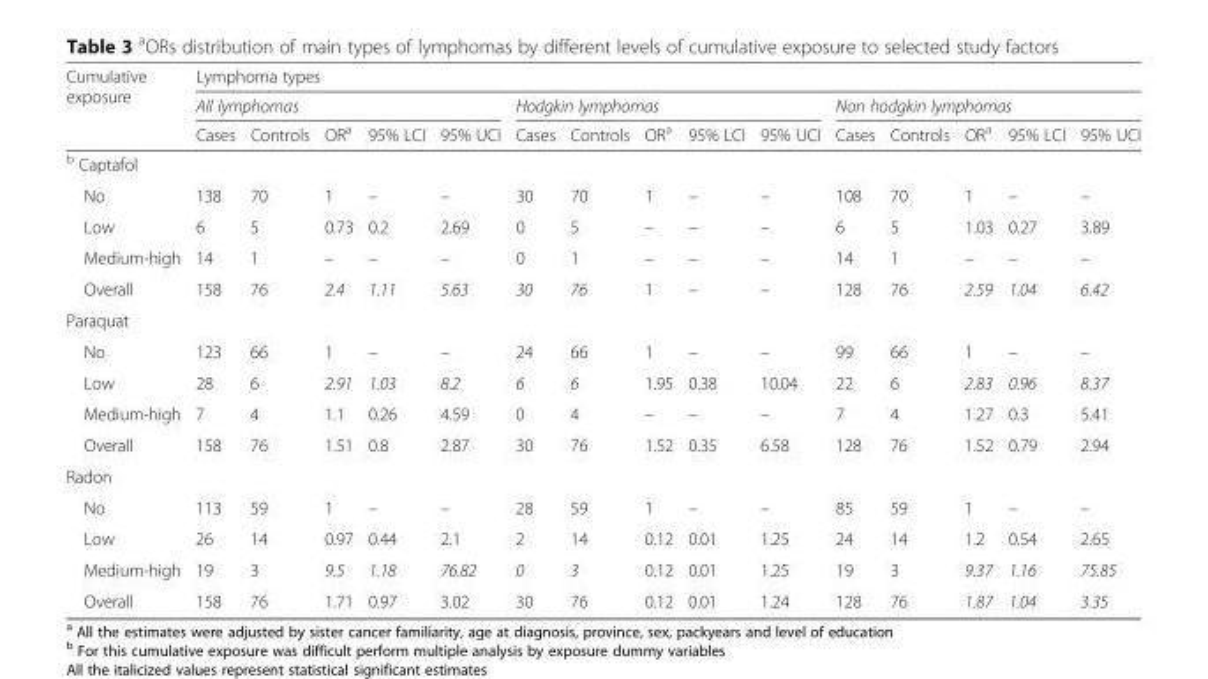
<table><thead><tr><td rowspan="3">Cumulative exposure</td><td colspan="15">Lymphoma types</td></tr><tr><td colspan="5">All lymphomas</td><td colspan="5">Hodgkin lymphomas</td><td colspan="5">Non hodgkin lymphomas</td></tr><tr><td>Cases</td><td>Controls</td><td>OR<sup>a</sup></td><td>95% LCI</td><td>95% UCI</td><td>Cases</td><td>Controls</td><td>OR<sup>a</sup></td><td>95% LCI</td><td>95% UCI</td><td>Cases</td><td>Controls</td><td>OR<sup>a</sup></td><td>95% LCI</td><td>95% UCI</td></tr></thead><tbody><tr><td colspan="16"><sup>b</sup> Captafol</td></tr><tr><td>No</td><td>138</td><td>70</td><td>1</td><td>–</td><td>–</td><td>30</td><td>70</td><td>1</td><td>–</td><td>–</td><td>108</td><td>70</td><td>1</td><td>–</td><td>–</td></tr><tr><td>Low</td><td>6</td><td>5</td><td>0.73</td><td>0.2</td><td>2.69</td><td>0</td><td>5</td><td>–</td><td>–</td><td>–</td><td>6</td><td>5</td><td>1.03</td><td>0.27</td><td>3.89</td></tr><tr><td>Medium-high</td><td>14</td><td>1</td><td>–</td><td>–</td><td>–</td><td>0</td><td>1</td><td>–</td><td>–</td><td>–</td><td>14</td><td>1</td><td>–</td><td>–</td><td>–</td></tr><tr><td>Overall</td><td>158</td><td>76</td><td>2.4</td><td>1.11</td><td>5.63</td><td>30</td><td>76</td><td>1</td><td>–</td><td>–</td><td>128</td><td>76</td><td>2.59</td><td>1.04</td><td>6.42</td></tr><tr><td colspan="16">Paraquat</td></tr><tr><td>No</td><td>123</td><td>66</td><td>1</td><td>–</td><td>–</td><td>24</td><td>66</td><td>1</td><td>–</td><td>–</td><td>99</td><td>66</td><td>1</td><td>–</td><td>–</td></tr><tr><td>Low</td><td>28</td><td>6</td><td>2.91</td><td>1.03</td><td>8.2</td><td>6</td><td>6</td><td>1.95</td><td>0.38</td><td>10.04</td><td>22</td><td>6</td><td>2.83</td><td>0.96</td><td>8.37</td></tr><tr><td>Medium-high</td><td>7</td><td>4</td><td>1.1</td><td>0.26</td><td>4.59</td><td>0</td><td>4</td><td>–</td><td>–</td><td>–</td><td>7</td><td>4</td><td>1.27</td><td>0.3</td><td>5.41</td></tr><tr><td>Overall</td><td>158</td><td>76</td><td>1.51</td><td>0.8</td><td>2.87</td><td>30</td><td>76</td><td>1.52</td><td>0.35</td><td>6.58</td><td>128</td><td>76</td><td>1.52</td><td>0.79</td><td>2.94</td></tr><tr><td colspan="16">Radon</td></tr><tr><td>No</td><td>113</td><td>59</td><td>1</td><td>–</td><td>–</td><td>28</td><td>59</td><td>1</td><td>–</td><td>–</td><td>85</td><td>59</td><td>1</td><td>–</td><td>–</td></tr><tr><td>Low</td><td>26</td><td>14</td><td>0.97</td><td>0.44</td><td>2.1</td><td>2</td><td>14</td><td>0.12</td><td>0.01</td><td>1.25</td><td>24</td><td>14</td><td>1.2</td><td>0.54</td><td>2.65</td></tr><tr><td>Medium-high</td><td>19</td><td>3</td><td>9.5</td><td>1.18</td><td>76.82</td><td>0</td><td>3</td><td>0.12</td><td>0.01</td><td>1.25</td><td>19</td><td>3</td><td>9.37</td><td>1.16</td><td>75.85</td></tr><tr><td>Overall</td><td>158</td><td>76</td><td>1.71</td><td>0.97</td><td>3.02</td><td>30</td><td>76</td><td>0.12</td><td>0.01</td><td>1.24</td><td>128</td><td>76</td><td>1.87</td><td>1.04</td><td>3.35</td></tr></tbody></table>